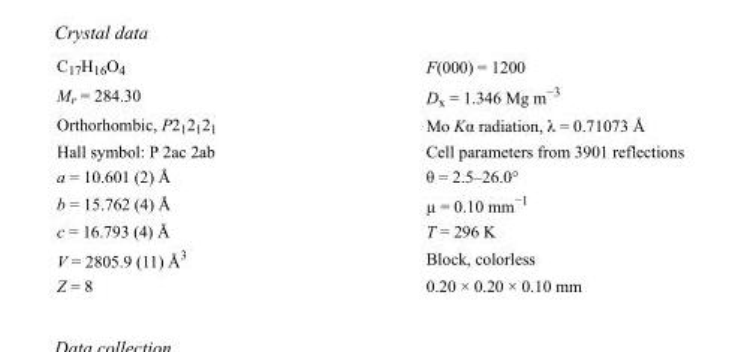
<table><tbody><tr><td>C<sub>17</sub>H<sub>16</sub>O<sub>4</sub></td><td>F(000) = 1200</td></tr><tr><td>M<sub>r</sub> = 284.30</td><td>D<sub>x</sub> = 1.346 Mg m<sup>−3</sup></td></tr><tr><td>Orthorhombic, P2<sub>1</sub>2<sub>1</sub>2<sub>1</sub></td><td>Mo Kα radiation, λ = 0.71073 Å</td></tr><tr><td>Hall symbol: P 2ac 2ab</td><td>Cell parameters from 3901 reflections</td></tr><tr><td>a = 10.601 (2) Å</td><td>θ = 2.5–26.0°</td></tr><tr><td>b = 15.762 (4) Å</td><td>µ = 0.10 mm<sup>−1</sup></td></tr><tr><td>c = 16.793 (4) Å</td><td>T = 296 K</td></tr><tr><td>V = 2805.9 (11) Å<sup>3</sup></td><td>Block, colorless</td></tr><tr><td>Z = 8</td><td>0.20 × 0.20 × 0.10 mm</td></tr></tbody></table>